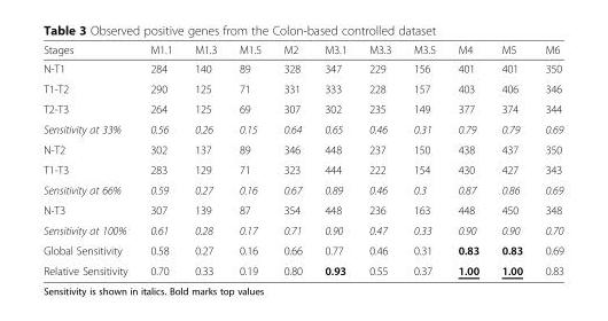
<table><thead><tr><td>Stages</td><td>M1.1</td><td>M1.3</td><td>M1.5</td><td>M2</td><td>M3.1</td><td>M3.3</td><td>M3.5</td><td>M4</td><td>M5</td><td>M6</td></tr></thead><tbody><tr><td>N-T1</td><td>284</td><td>140</td><td>89</td><td>328</td><td>347</td><td>229</td><td>156</td><td>401</td><td>401</td><td>350</td></tr><tr><td>T1-T2</td><td>290</td><td>125</td><td>71</td><td>331</td><td>333</td><td>228</td><td>157</td><td>403</td><td>406</td><td>346</td></tr><tr><td>T2-T3</td><td>264</td><td>125</td><td>69</td><td>307</td><td>302</td><td>235</td><td>149</td><td>377</td><td>374</td><td>344</td></tr><tr><td>Sensitivity at 33%</td><td>0.56</td><td>0.26</td><td>0.15</td><td>0.64</td><td>0.65</td><td>0.46</td><td>0.31</td><td>0.79</td><td>0.79</td><td>0.69</td></tr><tr><td>N-T2</td><td>302</td><td>137</td><td>89</td><td>346</td><td>448</td><td>237</td><td>150</td><td>438</td><td>437</td><td>350</td></tr><tr><td>T1-T3</td><td>283</td><td>129</td><td>71</td><td>323</td><td>444</td><td>222</td><td>154</td><td>430</td><td>427</td><td>343</td></tr><tr><td>Sensitivity at 66%</td><td>0.59</td><td>0.27</td><td>0.16</td><td>0.67</td><td>0.89</td><td>0.46</td><td>0.3</td><td>0.87</td><td>0.86</td><td>0.69</td></tr><tr><td>N-T3</td><td>307</td><td>139</td><td>87</td><td>354</td><td>448</td><td>236</td><td>163</td><td>448</td><td>450</td><td>348</td></tr><tr><td>Sensitivity at 100%</td><td>0.61</td><td>0.28</td><td>0.17</td><td>0.71</td><td>0.90</td><td>0.47</td><td>0.33</td><td>0.90</td><td>0.90</td><td>0.70</td></tr><tr><td>Global Sensitivity</td><td>0.58</td><td>0.27</td><td>0.16</td><td>0.66</td><td>0.77</td><td>0.46</td><td>0.31</td><td>0.83</td><td>0.83</td><td>0.69</td></tr><tr><td>Relative Sensitivity</td><td>0.70</td><td>0.33</td><td>0.19</td><td>0.80</td><td>0.93</td><td>0.55</td><td>0.37</td><td>1.00</td><td>1.00</td><td>0.83</td></tr></tbody></table>